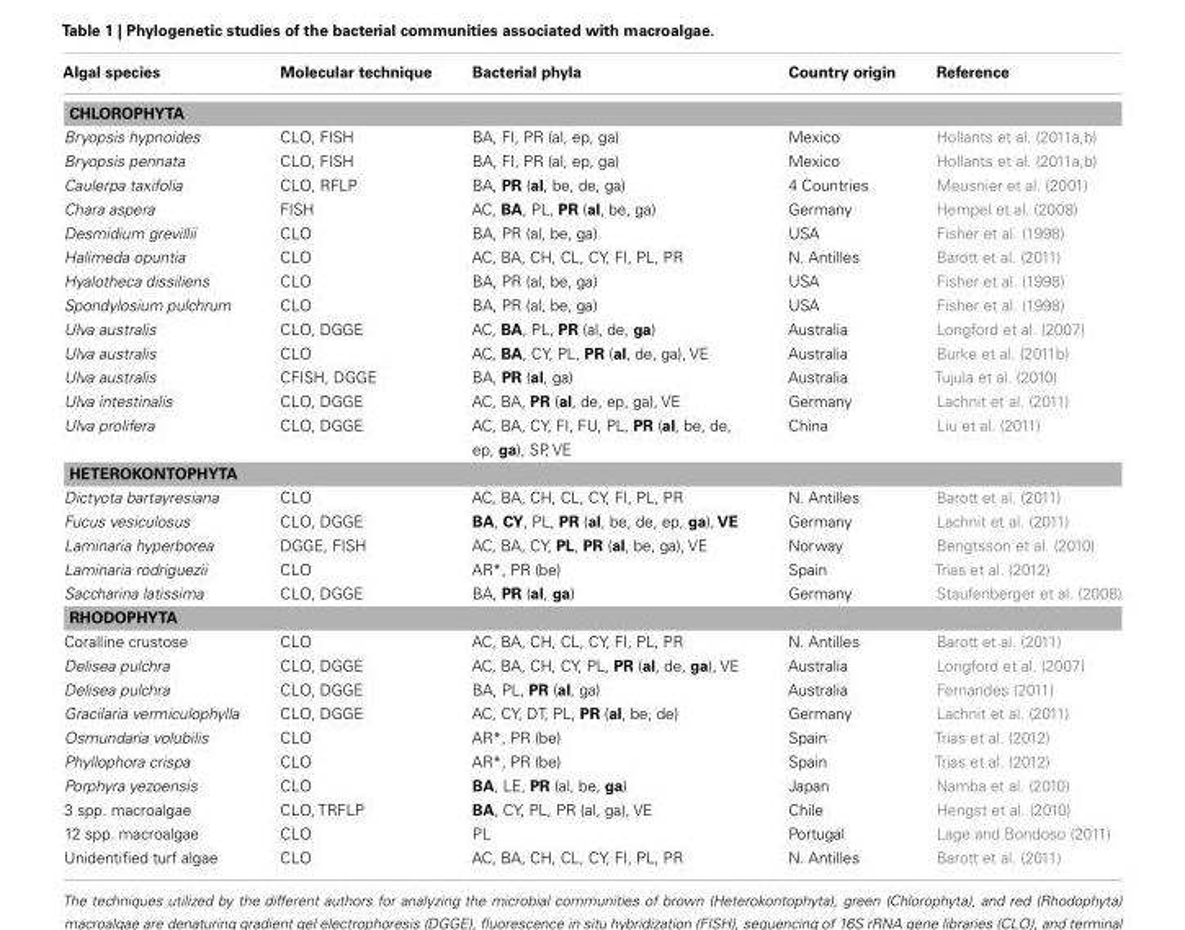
<table><thead><tr><td>Algal species</td><td>Molecular technique</td><td>Bacterial phyla</td><td>Country origin</td><td>Reference</td></tr></thead><tbody><tr><td colspan="5">CHLOROPHYTA</td></tr><tr><td>Bryopsis hypnoides</td><td>CLO, FISH</td><td>BA, FI, PR (al, ep, ga)</td><td>Mexico</td><td>Hollants et al. (2011a,b)</td></tr><tr><td>Bryopsis pennata</td><td>CLO, FISH</td><td>BA, FI, PR (al, ep, ga)</td><td>Mexico</td><td>Hollants et al. (2011a,b)</td></tr><tr><td>Caulerpa taxifolia</td><td>CLO, RFLP</td><td>BA, PR (al, be, de, ga)</td><td>4 Countries</td><td>Meusnier et al. (2001)</td></tr><tr><td>Chara aspera</td><td>FISH</td><td>AC, BA, PL, PR (al, be, ga)</td><td>Germany</td><td>Hempel et al. (2008)</td></tr><tr><td>Desmidium grevillii</td><td>CLO</td><td>BA, PR (al, be, ga)</td><td>USA</td><td>Fisher et al. (1998)</td></tr><tr><td>Halimeda opuntia</td><td>CLO</td><td>AC, BA, CH, CL, CY, FI, PL, PR</td><td>N. Antilles</td><td>Barott et al. (2011)</td></tr><tr><td>Hyalotheca dissiliens</td><td>CLO</td><td>BA, PR (al, be, ga)</td><td>USA</td><td>Fisher et al. (1998)</td></tr><tr><td>Spondylosium pulchrum</td><td>CLO</td><td>BA, PR (al, be, ga)</td><td>USA</td><td>Fisher et al. (1998)</td></tr><tr><td>Ulva australis</td><td>CLO, DGGE</td><td>AC, BA, PL, PR (al, de, ga)</td><td>Australia</td><td>Longford et al. (2007)</td></tr><tr><td>Ulva australis</td><td>CLO</td><td>AC, BA, CY, PL, PR (al, de, ga), VE</td><td>Australia</td><td>Burke et al. (2011b)</td></tr><tr><td>Ulva australis</td><td>CFISH, DGGE</td><td>BA, PR (al, ga)</td><td>Australia</td><td>Tujula et al. (2010)</td></tr><tr><td>Ulva intestinalis</td><td>CLO, DGGE</td><td>AC, BA, PR (al, de, ep, ga), VE</td><td>Germany</td><td>Lachnit et al. (2011)</td></tr><tr><td>Ulva prolifera</td><td>CLO, DGGE</td><td>AC, BA, CY, FI, FU, PL, PR (al, be, de, ep, ga), SP, VE</td><td>China</td><td>Liu et al. (2011)</td></tr><tr><td colspan="5">HETEROKONTOPHYTA</td></tr><tr><td>Dictyota bartayresiana</td><td>CLO</td><td>AC, BA, CH, CL, CY, FI, PL, PR</td><td>N. Antilles</td><td>Barott et al. (2011)</td></tr><tr><td>Fucus vesiculosus</td><td>CLO, DGGE</td><td>BA, CY, PL, PR (al, be, de, ep, ga), VE</td><td>Germany</td><td>Lachnit et al. (2011)</td></tr><tr><td>Laminaria hyperborea</td><td>DGGE, FISH</td><td>AC, BA, CY, PL, PR (al, be, ga), VE</td><td>Norway</td><td>Bengtsson et al. (2010)</td></tr><tr><td>Laminaria rodriguezii</td><td>CLO</td><td>AR*, PR (be)</td><td>Spain</td><td>Trias et al. (2012)</td></tr><tr><td>Saccharina latissima</td><td>CLO, DGGE</td><td>BA, PR (al, ga)</td><td>Germany</td><td>Staufenberger et al. (2008)</td></tr><tr><td colspan="5">RHODOPHYTA</td></tr><tr><td>Coralline crustose</td><td>CLO</td><td>AC, BA, CH, CL, CY, FI, PL, PR</td><td>N. Antilles</td><td>Barott et al. (2011)</td></tr><tr><td>Delisea pulchra</td><td>CLO, DGGE</td><td>AC, BA, CH, CY, PL, PR (al, de, ga), VE</td><td>Australia</td><td>Longford et al. (2007)</td></tr><tr><td>Delisea pulchra</td><td>CLO, DGGE</td><td>BA, PL, PR (al, ga)</td><td>Australia</td><td>Fernandes (2011)</td></tr><tr><td>Gracilaria vermiculophylla</td><td>CLO, DGGE</td><td>AC, CY, DT, PL, PR (al, be, de)</td><td>Germany</td><td>Lachnit et al. (2011)</td></tr><tr><td>Osmundaria volubilis</td><td>CLO</td><td>AR*, PR (be)</td><td>Spain</td><td>Trias et al. (2012)</td></tr><tr><td>Phyllophora crispa</td><td>CLO</td><td>AR*, PR (be)</td><td>Spain</td><td>Trias et al. (2012)</td></tr><tr><td>Porphyra yezoensis</td><td>CLO</td><td>BA, LE, PR (al, be, ga)</td><td>Japan</td><td>Namba et al. (2010)</td></tr><tr><td>3 spp. macroalgae</td><td>CLO, TRFLP</td><td>BA, CY, PL, PR (al, ga), VE</td><td>Chile</td><td>Hengst et al. (2010)</td></tr><tr><td>12 spp. macroalgae</td><td>CLO</td><td>PL</td><td>Portugal</td><td>Lage and Bondoso (2011)</td></tr><tr><td>Unidentified turf algae</td><td>CLO</td><td>AC, BA, CH, CL, CY, FI, PL, PR</td><td>N. Antilles</td><td>Barott et al. (2011)</td></tr></tbody></table>